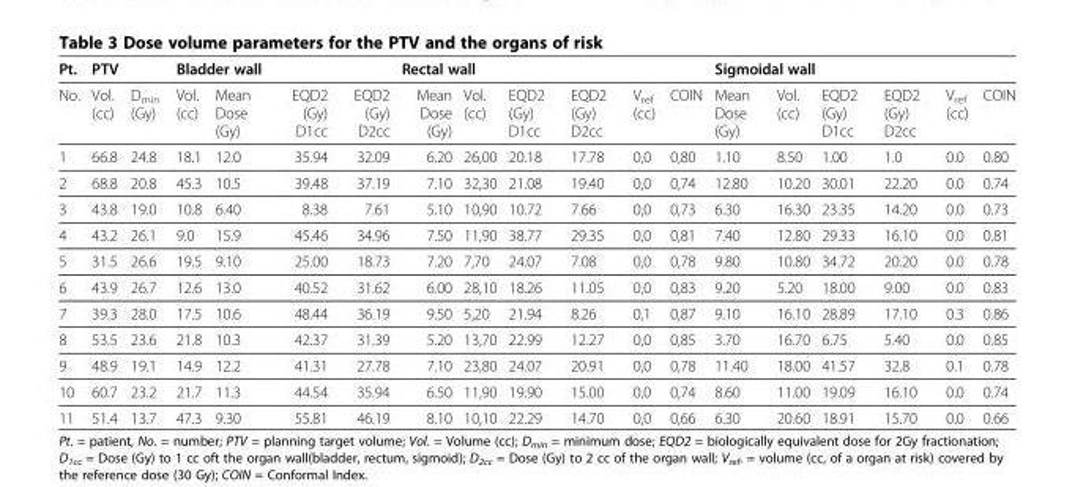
<table><thead><tr><td rowspan="2">Pt. No.</td><td colspan="2">PTV</td><td colspan="4">Bladder wall</td><td colspan="6">Rectal wall</td><td colspan="6">Sigmoidal wall</td></tr><tr><td>Vol. (cc)</td><td>D<sub>min</sub> (Gy)</td><td>Vol. (cc)</td><td>Mean Dose (Gy)</td><td>EQD2 (Gy) D1cc</td><td>EQD2 (Gy) D2cc</td><td>Mean Dose (Gy)</td><td>Vol. (cc)</td><td>EQD2 (Gy) D1cc</td><td>EQD2 (Gy) D2cc</td><td>V<sub>ref</sub> (cc)</td><td>COIN</td><td>Mean Dose (Gy)</td><td>Vol. (cc)</td><td>EQD2 (Gy) D1cc</td><td>EQD2 (Gy) D2cc</td><td>V<sub>ref</sub> (cc)</td><td>COIN</td></tr></thead><tbody><tr><td>1</td><td>66.8</td><td>24.8</td><td>18.1</td><td>12.0</td><td>35.94</td><td>32.09</td><td>6.20</td><td>26,00</td><td>20.18</td><td>17.78</td><td>0,0</td><td>0,80</td><td>1.10</td><td>8.50</td><td>1.00</td><td>1.0</td><td>0.0</td><td>0.80</td></tr><tr><td>2</td><td>68.8</td><td>20.8</td><td>45.3</td><td>10.5</td><td>39.48</td><td>37.19</td><td>7.10</td><td>32,30</td><td>21.08</td><td>19.40</td><td>0,0</td><td>0,74</td><td>12.80</td><td>10.20</td><td>30.01</td><td>22.20</td><td>0.0</td><td>0.74</td></tr><tr><td>3</td><td>43.8</td><td>19.0</td><td>10.8</td><td>6.40</td><td>8.38</td><td>7.61</td><td>5.10</td><td>10,90</td><td>10.72</td><td>7.66</td><td>0,0</td><td>0,73</td><td>6.30</td><td>16.30</td><td>23.35</td><td>14.20</td><td>0.0</td><td>0.73</td></tr><tr><td>4</td><td>43.2</td><td>26.1</td><td>9.0</td><td>15.9</td><td>45.46</td><td>34.96</td><td>7.50</td><td>11,90</td><td>38.77</td><td>29.35</td><td>0,0</td><td>0,81</td><td>7.40</td><td>12.80</td><td>29.33</td><td>16.10</td><td>0.0</td><td>0.81</td></tr><tr><td>5</td><td>31.5</td><td>26.6</td><td>19.5</td><td>9.10</td><td>25.00</td><td>18.73</td><td>7.20</td><td>7,70</td><td>24.07</td><td>7.08</td><td>0,0</td><td>0,78</td><td>9.80</td><td>10.80</td><td>34.72</td><td>20.20</td><td>0.0</td><td>0.78</td></tr><tr><td>6</td><td>43.9</td><td>26.7</td><td>12.6</td><td>13.0</td><td>40.52</td><td>31.62</td><td>6.00</td><td>28,10</td><td>18.26</td><td>11.05</td><td>0,0</td><td>0,83</td><td>9.20</td><td>5.20</td><td>18.00</td><td>9.00</td><td>0.0</td><td>0.83</td></tr><tr><td>7</td><td>39.3</td><td>28.0</td><td>17.5</td><td>10.6</td><td>48.44</td><td>36.19</td><td>9.50</td><td>5,20</td><td>21.94</td><td>8.26</td><td>0,1</td><td>0,87</td><td>9.10</td><td>16.10</td><td>28.89</td><td>17.10</td><td>0.3</td><td>0.86</td></tr><tr><td>8</td><td>53.5</td><td>23.6</td><td>21.8</td><td>10.3</td><td>42.37</td><td>31.39</td><td>5.20</td><td>13,70</td><td>22.99</td><td>12.27</td><td>0,0</td><td>0,85</td><td>3.70</td><td>16.70</td><td>6.75</td><td>5.40</td><td>0.0</td><td>0.85</td></tr><tr><td>9</td><td>48.9</td><td>19.1</td><td>14.9</td><td>12.2</td><td>41.31</td><td>27.78</td><td>7.10</td><td>23,80</td><td>24.07</td><td>20.91</td><td>0,0</td><td>0,78</td><td>11.40</td><td>18.00</td><td>41.57</td><td>32.8</td><td>0.1</td><td>0.78</td></tr><tr><td>10</td><td>60.7</td><td>23.2</td><td>21.7</td><td>11.3</td><td>44.54</td><td>35.94</td><td>6.50</td><td>11,90</td><td>19.90</td><td>15.00</td><td>0,0</td><td>0,74</td><td>8.60</td><td>11.00</td><td>19.09</td><td>16.10</td><td>0.0</td><td>0.74</td></tr><tr><td>11</td><td>51.4</td><td>13.7</td><td>47.3</td><td>9.30</td><td>55.81</td><td>46.19</td><td>8.10</td><td>10,10</td><td>22.29</td><td>14.70</td><td>0,0</td><td>0,66</td><td>6.30</td><td>20.60</td><td>18.91</td><td>15.70</td><td>0.0</td><td>0.66</td></tr></tbody></table>